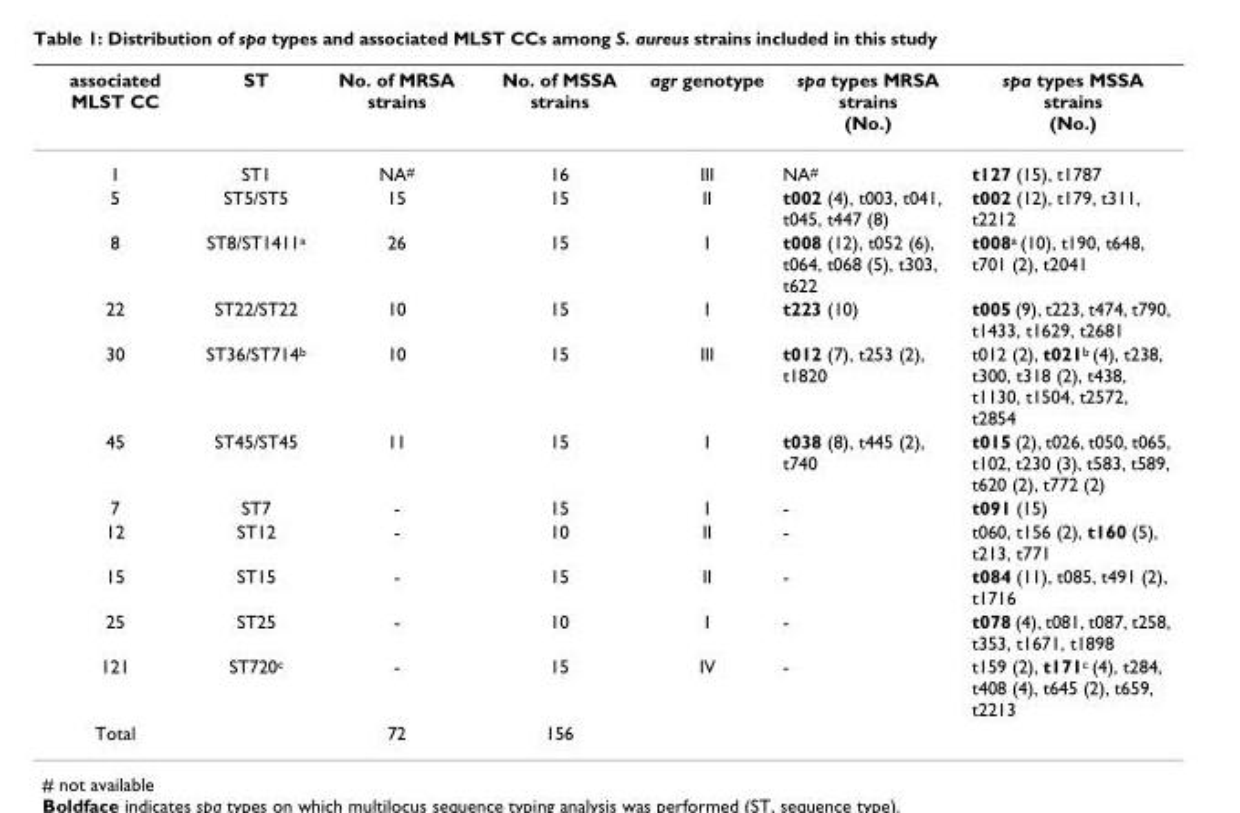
<table><thead><tr><td>associated MLST CC</td><td>ST</td><td>No. of MRSA strains</td><td>No. of MSSA strains</td><td>agr genotype</td><td>spa types MRSA strains (No.)</td><td>spa types MSSA strains (No.)</td></tr></thead><tbody><tr><td>1</td><td>ST1</td><td>NA<sup>#</sup></td><td>16</td><td>III</td><td>NA<sup>#</sup></td><td>t127 (15), t1787</td></tr><tr><td>5</td><td>ST5/ST5</td><td>15</td><td>15</td><td>II</td><td>t002 (4), t003, t041, t045, t447 (8)</td><td>t002 (12), t179, t311, t2212</td></tr><tr><td>8</td><td>ST8/ST1411<sup>a</sup></td><td>26</td><td>15</td><td>I</td><td>t008 (12), t052 (6), t064, t068 (5), t303, t622</td><td>t008<sup>a</sup> (10), t190, t648, t701 (2), t2041</td></tr><tr><td>22</td><td>ST22/ST22</td><td>10</td><td>15</td><td>I</td><td>t223 (10)</td><td>t005 (9), t223, t474, t790, t1433, t1629, t2681</td></tr><tr><td>30</td><td>ST36/ST714<sup>b</sup></td><td>10</td><td>15</td><td>III</td><td>t012 (7), t253 (2), t1820</td><td>t012 (2), t021<sup>b</sup> (4), t238, t300, t318 (2), t438, t1130, t1504, t2572, t2854</td></tr><tr><td>45</td><td>ST45/ST45</td><td>11</td><td>15</td><td>I</td><td>t038 (8), t445 (2), t740</td><td>t015 (2), t026, t050, t065, t102, t230 (3), t583, t589, t620 (2), t772 (2)</td></tr><tr><td>7</td><td>ST7</td><td>-</td><td>15</td><td>I</td><td>-</td><td>t091 (15)</td></tr><tr><td>12</td><td>ST12</td><td>-</td><td>10</td><td>II</td><td>-</td><td>t060, t156 (2), t160 (5), t213, t771</td></tr><tr><td>15</td><td>ST15</td><td>-</td><td>15</td><td>II</td><td>-</td><td>t084 (11), t085, t491 (2), t1716</td></tr><tr><td>25</td><td>ST25</td><td>-</td><td>10</td><td>I</td><td>-</td><td>t078 (4), t081, t087, t258, t353, t1671, t1898</td></tr><tr><td>121</td><td>ST720<sup>c</sup></td><td>-</td><td>15</td><td>IV</td><td>-</td><td>t159 (2), t171<sup>c</sup> (4), t284, t408 (4), t645 (2), t659, t2213</td></tr><tr><td>Total</td><td></td><td>72</td><td>156</td><td></td><td></td><td></td></tr></tbody></table>